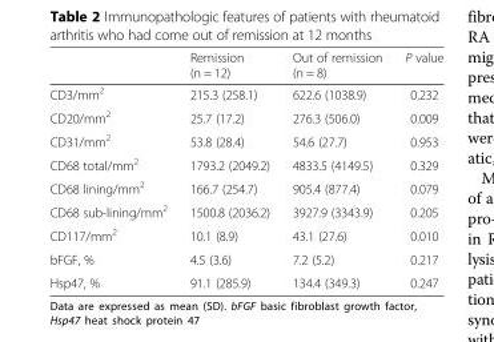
<table><thead><tr><td></td><td>Remission (n = 12)</td><td>Out of remission (n = 8)</td><td>P value</td></tr></thead><tbody><tr><td>CD3/mm<sup>2</sup></td><td>215.3 (258.1)</td><td>622.6 (1038.9)</td><td>0.232</td></tr><tr><td>CD20/mm<sup>2</sup></td><td>25.7 (17.2)</td><td>276.3 (506.0)</td><td>0.009</td></tr><tr><td>CD31/mm<sup>2</sup></td><td>53.8 (28.4)</td><td>54.6 (27.7)</td><td>0.953</td></tr><tr><td>CD68 total/mm<sup>2</sup></td><td>1793.2 (2049.2)</td><td>4833.5 (4149.5)</td><td>0.329</td></tr><tr><td>CD68 lining/mm<sup>2</sup></td><td>166.7 (254.7)</td><td>905.4 (877.4)</td><td>0.079</td></tr><tr><td>CD68 sub-lining/mm<sup>2</sup></td><td>1500.8 (2036.2)</td><td>3927.9 (3343.9)</td><td>0.205</td></tr><tr><td>CD117/mm<sup>2</sup></td><td>10.1 (8.9)</td><td>43.1 (27.6)</td><td>0.010</td></tr><tr><td>bFGF, %</td><td>4.5 (3.6)</td><td>7.2 (5.2)</td><td>0.217</td></tr><tr><td>Hsp47, %</td><td>91.1 (285.9)</td><td>134.4 (349.3)</td><td>0.247</td></tr></tbody></table>